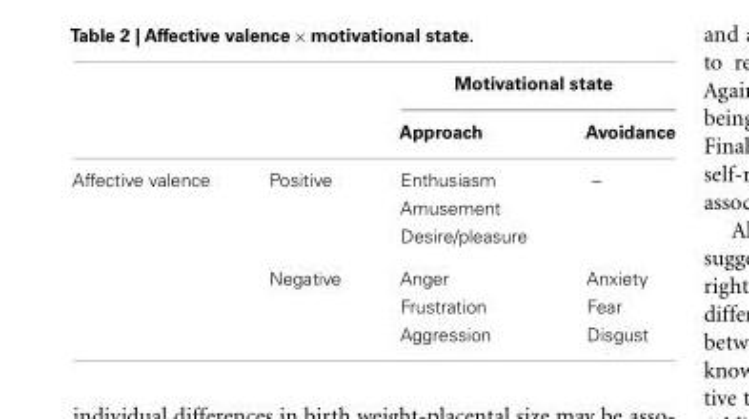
<table><thead><tr><td rowspan="2"></td><td rowspan="2"></td><td colspan="2">Motivational state</td></tr><tr><td>Approach</td><td>Avoidance</td></tr></thead><tbody><tr><td rowspan="2">Affective valence</td><td>Positive</td><td>Enthusiasm Amusement Desire/pleasure</td><td>–</td></tr><tr><td>Negative</td><td>Anger Frustration Aggression</td><td>Anxiety Fear Disgust</td></tr></tbody></table>